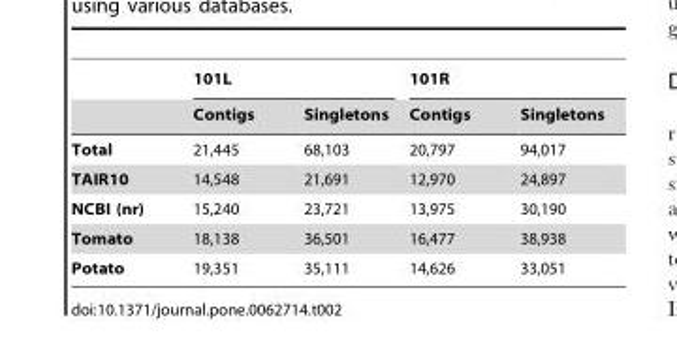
<table><thead><tr><td rowspan="2"></td><td colspan="2">101L</td><td colspan="2">101R</td></tr><tr><td>Contigs</td><td>Singletons</td><td>Contigs</td><td>Singletons</td></tr></thead><tbody><tr><td>Total</td><td>21,445</td><td>68,103</td><td>20,797</td><td>94,017</td></tr><tr><td>TAIR10</td><td>14,548</td><td>21,691</td><td>12,970</td><td>24,897</td></tr><tr><td>NCBI (nr)</td><td>15,240</td><td>23,721</td><td>13,975</td><td>30,190</td></tr><tr><td>Tomato</td><td>18,138</td><td>36,501</td><td>16,477</td><td>38,938</td></tr><tr><td>Potato</td><td>19,351</td><td>35,111</td><td>14,626</td><td>33,051</td></tr></tbody></table>